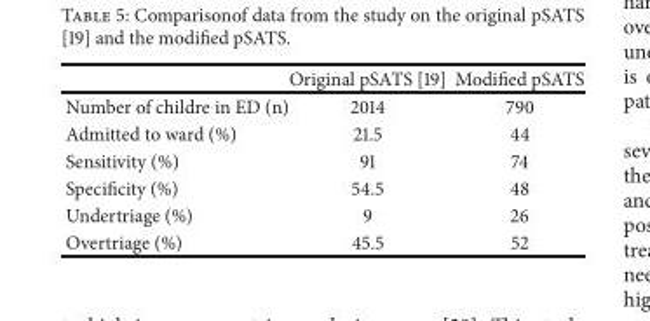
<table><thead><tr><td></td><td>Original pSATS [19]</td><td>Modified pSATS</td></tr></thead><tbody><tr><td>Number of childre in ED (n)</td><td>2014</td><td>790</td></tr><tr><td>Admitted to ward (%)</td><td>21.5</td><td>44</td></tr><tr><td>Sensitivity (%)</td><td>91</td><td>74</td></tr><tr><td>Specificity (%)</td><td>54.5</td><td>48</td></tr><tr><td>Undertriage (%)</td><td>9</td><td>26</td></tr><tr><td>Overtriage (%)</td><td>45.5</td><td>52</td></tr></tbody></table>